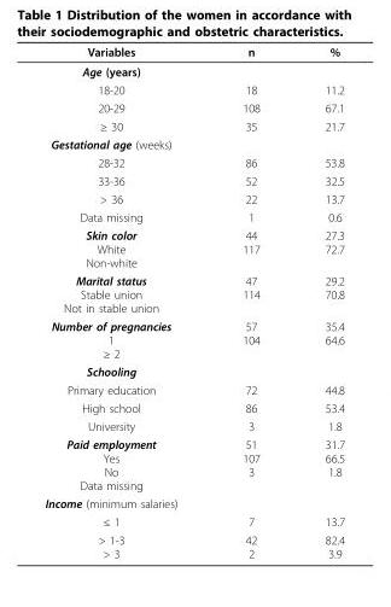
<table><thead><tr><td>Variables</td><td>n</td><td>%</td></tr></thead><tbody><tr><td colspan="3">Age (years)</td></tr><tr><td>18-20</td><td>18</td><td>11.2</td></tr><tr><td>20-29</td><td>108</td><td>67.1</td></tr><tr><td>≥ 30</td><td>35</td><td>21.7</td></tr><tr><td colspan="3">Gestational age (weeks)</td></tr><tr><td>28-32</td><td>86</td><td>53.8</td></tr><tr><td>33-36</td><td>52</td><td>32.5</td></tr><tr><td>&gt; 36</td><td>22</td><td>13.7</td></tr><tr><td>Data missing</td><td>1</td><td>0.6</td></tr><tr><td>Skin color White Non-white</td><td>44 117</td><td>27.3 72.7</td></tr><tr><td>Marital status Stable union Not in stable union</td><td>47 114</td><td>29.2 70.8</td></tr><tr><td>Number of pregnancies 1 ≥ 2</td><td>57 104</td><td>35.4 64.6</td></tr><tr><td colspan="3">Schooling</td></tr><tr><td>Primary education</td><td>72</td><td>44.8</td></tr><tr><td>High school</td><td>86</td><td>53.4</td></tr><tr><td>University</td><td>3</td><td>1.8</td></tr><tr><td>Paid employment Yes No Data missing</td><td>51 107 3</td><td>31.7 66.5 1.8</td></tr><tr><td colspan="3">Income (minimum salaries)</td></tr><tr><td>≤ 1</td><td>7</td><td>13.7</td></tr><tr><td>&gt; 1-3 &gt; 3</td><td>42 2</td><td>82.4 3.9</td></tr></tbody></table>